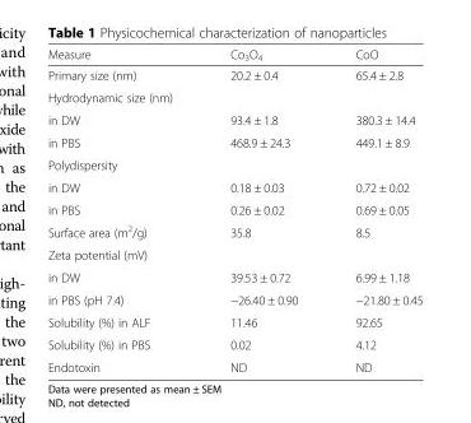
<table><thead><tr><td>Measure</td><td>Co<sub>3</sub>O<sub>4</sub></td><td>CoO</td></tr></thead><tbody><tr><td>Primary size (nm)</td><td>20.2 ± 0.4</td><td>65.4 ± 2.8</td></tr><tr><td colspan="3">Hydrodynamic size (nm)</td></tr><tr><td>in DW</td><td>93.4 ± 1.8</td><td>380.3 ± 14.4</td></tr><tr><td>in PBS</td><td>468.9 ± 24.3</td><td>449.1 ± 8.9</td></tr><tr><td colspan="3">Polydispersity</td></tr><tr><td>in DW</td><td>0.18 ± 0.03</td><td>0.72 ± 0.02</td></tr><tr><td>in PBS</td><td>0.26 ± 0.02</td><td>0.69 ± 0.05</td></tr><tr><td>Surface area (m<sup>2</sup>/g)</td><td>35.8</td><td>8.5</td></tr><tr><td colspan="3">Zeta potential (mV)</td></tr><tr><td>in DW</td><td>39.53 ± 0.72</td><td>6.99 ± 1.18</td></tr><tr><td>in PBS (pH 7.4)</td><td>−26.40 ± 0.90</td><td>−21.80 ± 0.45</td></tr><tr><td>Solubility (%) in ALF</td><td>11.46</td><td>92.65</td></tr><tr><td>Solubility (%) in PBS</td><td>0.02</td><td>4.12</td></tr><tr><td>Endotoxin</td><td>ND</td><td>ND</td></tr></tbody></table>